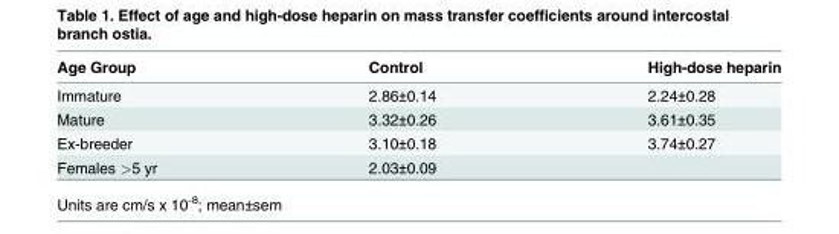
<table><thead><tr><td>Age Group</td><td>Control</td><td>High-dose heparin</td></tr></thead><tbody><tr><td>Immature</td><td>2.86±0.14</td><td>2.24±0.28</td></tr><tr><td>Mature</td><td>3.32±0.26</td><td>3.61±0.35</td></tr><tr><td>Ex-breeder</td><td>3.10±0.18</td><td>3.74±0.27</td></tr><tr><td>Females &gt;5 yr</td><td>2.03±0.09</td><td></td></tr></tbody></table>